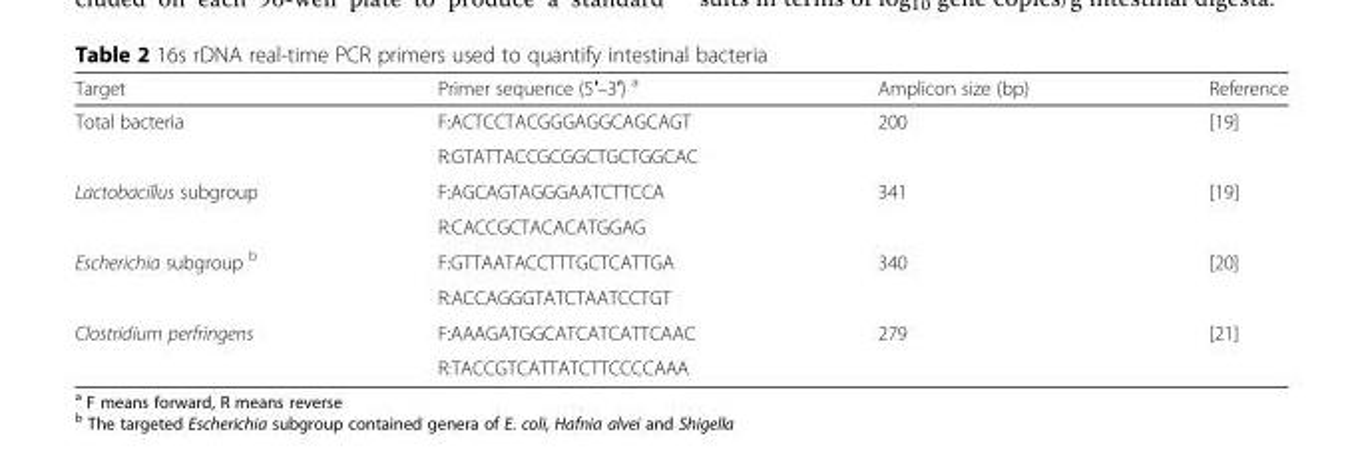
<table><thead><tr><td>Target</td><td>Primer sequence (5′–3′) <sup>a</sup></td><td>Amplicon size (bp)</td><td>Reference</td></tr></thead><tbody><tr><td rowspan="2">Total bacteria</td><td>F:ACTCCTACGGGAGGCAGCAGT</td><td rowspan="2">200</td><td rowspan="2">[19]</td></tr><tr><td>R:GTATTACCGCGGCTGCTGGCAC</td></tr><tr><td rowspan="2">Lactobacillus subgroup</td><td>F:AGCAGTAGGGAATCTTCCA</td><td rowspan="2">341</td><td rowspan="2">[19]</td></tr><tr><td>R:CACCGCTACACATGGAG</td></tr><tr><td rowspan="2">Escherichia subgroup <sup>b</sup></td><td>F:GTTAATACCTTTGCTCATTGA</td><td rowspan="2">340</td><td rowspan="2">[20]</td></tr><tr><td>R:ACCAGGGTATCTAATCCTGT</td></tr><tr><td rowspan="2">Clostridium perfringens</td><td>F:AAAGATGGCATCATCATTCAAC</td><td rowspan="2">279</td><td rowspan="2">[21]</td></tr><tr><td>R:TACCGTCATTATCTTCCCCAAA</td></tr></tbody></table>